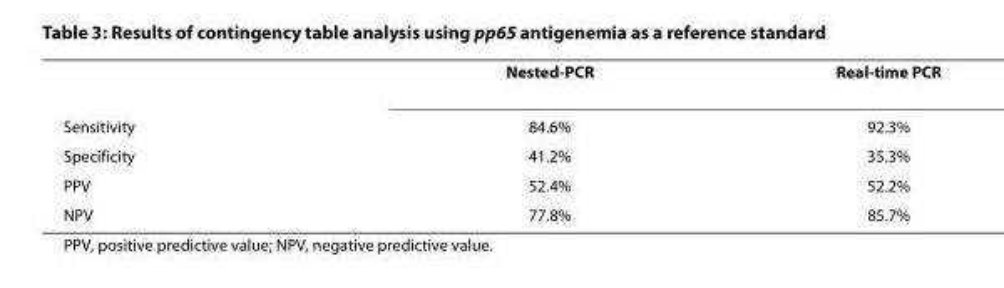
<table><thead><tr><td></td><td>Nested-PCR</td><td>Real-time PCR</td></tr></thead><tbody><tr><td>Sensitivity</td><td>84.6%</td><td>92.3%</td></tr><tr><td>Specificity</td><td>41.2%</td><td>35.3%</td></tr><tr><td>PPV</td><td>52.4%</td><td>52.2%</td></tr><tr><td>NPV</td><td>77.8%</td><td>85.7%</td></tr></tbody></table>